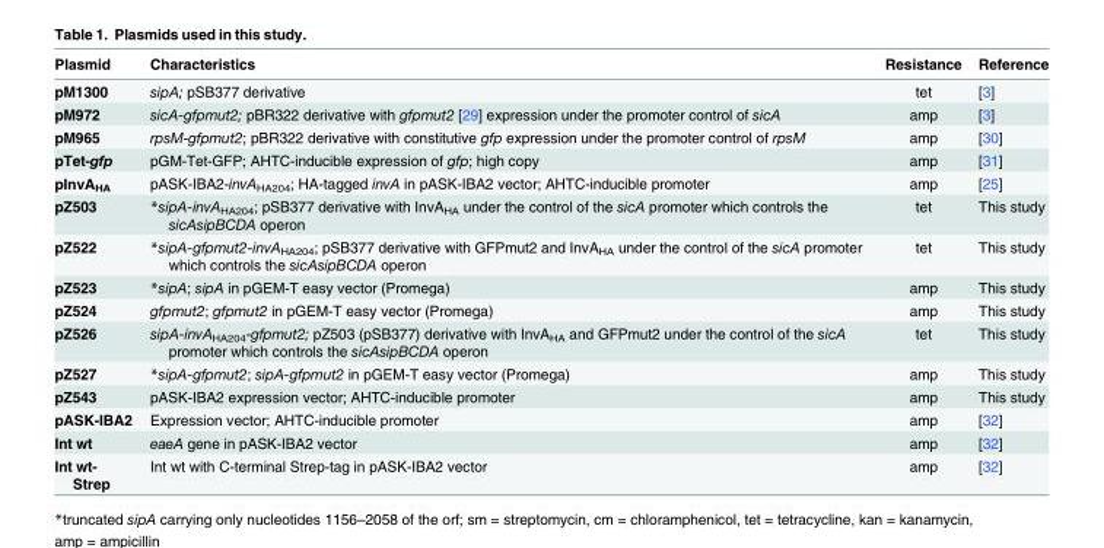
<table><thead><tr><td>Plasmid</td><td>Characteristics</td><td>Resistance</td><td>Reference</td></tr></thead><tbody><tr><td>pM1300</td><td>sipA; pSB377 derivative</td><td>tet</td><td>[3]</td></tr><tr><td>pM972</td><td>sicA-gfpmut2; pBR322 derivative with gfpmut2 [29] expression under the promoter control of sicA</td><td>amp</td><td>[3]</td></tr><tr><td>pM965</td><td>rpsM-gfpmut2; pBR322 derivative with constitutive gfp expression under the promoter control of rpsM</td><td>amp</td><td>[30]</td></tr><tr><td>pTet-gfp</td><td>pGM-Tet-GFP; AHTC-inducible expression of gfp; high copy</td><td>amp</td><td>[31]</td></tr><tr><td>pInvA<sub>HA</sub></td><td>pASK-IBA2-invA<sub>HA204</sub>; HA-tagged invA in pASK-IBA2 vector; AHTC-inducible promoter</td><td>amp</td><td>[25]</td></tr><tr><td>pZ503</td><td>*sipA-invA<sub>HA204</sub>; pSB377 derivative with InvA<sub>HA</sub> under the control of the sicA promoter which controls the sicAsipBCDA operon</td><td>tet</td><td>This study</td></tr><tr><td>pZ522</td><td>*sipA-gfpmut2-invA<sub>HA204</sub>; pSB377 derivative with GFPmut2 and InvA<sub>HA</sub> under the control of the sicA promoter which controls the sicAsipBCDA operon</td><td>tet</td><td>This study</td></tr><tr><td>pZ523</td><td>*sipA; sipA in pGEM-T easy vector (Promega)</td><td>amp</td><td>This study</td></tr><tr><td>pZ524</td><td>gfpmut2; gfpmut2 in pGEM-T easy vector (Promega)</td><td>amp</td><td>This study</td></tr><tr><td>pZ526</td><td>sipA-invA<sub>HA204</sub>-gfpmut2; pZ503 (pSB377) derivative with InvA<sub>HA</sub> and GFPmut2 under the control of the sicA promoter which controls the sicAsipBCDA operon</td><td>tet</td><td>This study</td></tr><tr><td>pZ527</td><td>*sipA-gfpmut2; sipA-gfpmut2 in pGEM-T easy vector (Promega)</td><td>amp</td><td>This study</td></tr><tr><td>pZ543</td><td>pASK-IBA2 expression vector; AHTC-inducible promoter</td><td>amp</td><td>This study</td></tr><tr><td>pASK-IBA2</td><td>Expression vector; AHTC-inducible promoter</td><td>amp</td><td>[32]</td></tr><tr><td>Int wt</td><td>eaeA gene in pASK-IBA2 vector</td><td>amp</td><td>[32]</td></tr><tr><td>Int wt- Strep</td><td>Int wt with C-terminal Strep-tag in pASK-IBA2 vector</td><td>amp</td><td>[32]</td></tr></tbody></table>